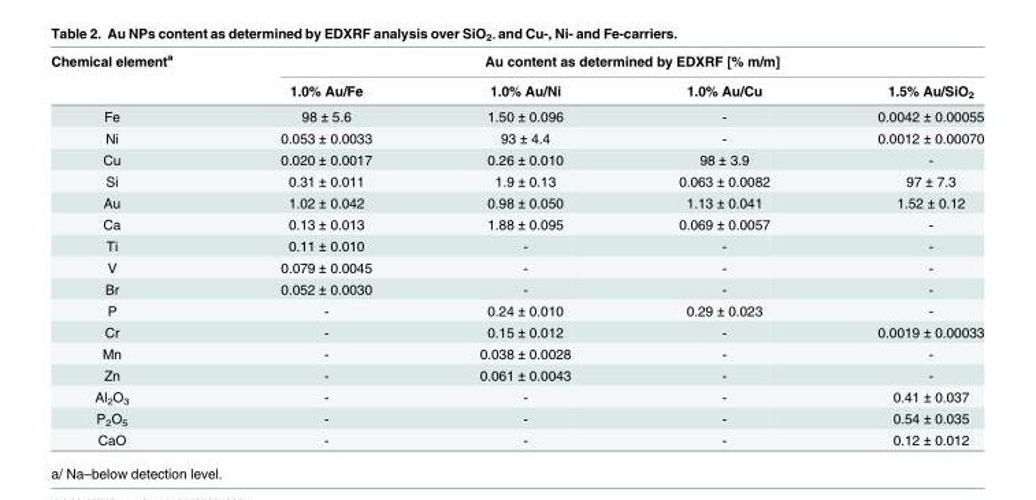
<table><thead><tr><td rowspan="2">Chemical element<sup>a</sup></td><td colspan="4">Au content as determined by EDXRF [% m/m]</td></tr><tr><td>1.0% Au/Fe</td><td>1.0% Au/Ni</td><td>1.0% Au/Cu</td><td>1.5% Au/SiO<sub>2</sub></td></tr></thead><tbody><tr><td>Fe</td><td>98 ± 5.6</td><td>1.50 ± 0.096</td><td>-</td><td>0.0042 ± 0.00055</td></tr><tr><td>Ni</td><td>0.053 ± 0.0033</td><td>93 ± 4.4</td><td>-</td><td>0.0012 ± 0.00070</td></tr><tr><td>Cu</td><td>0.020 ± 0.0017</td><td>0.26 ± 0.010</td><td>98 ± 3.9</td><td>-</td></tr><tr><td>Si</td><td>0.31 ± 0.011</td><td>1.9 ± 0.13</td><td>0.063 ± 0.0082</td><td>97 ± 7.3</td></tr><tr><td>Au</td><td>1.02 ± 0.042</td><td>0.98 ± 0.050</td><td>1.13 ± 0.041</td><td>1.52 ± 0.12</td></tr><tr><td>Ca</td><td>0.13 ± 0.013</td><td>1.88 ± 0.095</td><td>0.069 ± 0.0057</td><td>-</td></tr><tr><td>Ti</td><td>0.11 ± 0.010</td><td>-</td><td>-</td><td>-</td></tr><tr><td>V</td><td>0.079 ± 0.0045</td><td>-</td><td>-</td><td>-</td></tr><tr><td>Br</td><td>0.052 ± 0.0030</td><td>-</td><td>-</td><td>-</td></tr><tr><td>P</td><td>-</td><td>0.24 ± 0.010</td><td>0.29 ± 0.023</td><td>-</td></tr><tr><td>Cr</td><td>-</td><td>0.15 ± 0.012</td><td>-</td><td>0.0019 ± 0.00033</td></tr><tr><td>Mn</td><td>-</td><td>0.038 ± 0.0028</td><td>-</td><td>-</td></tr><tr><td>Zn</td><td>-</td><td>0.061 ± 0.0043</td><td>-</td><td>-</td></tr><tr><td>Al<sub>2</sub>O<sub>3</sub></td><td>-</td><td>-</td><td>-</td><td>0.41 ± 0.037</td></tr><tr><td>P<sub>2</sub>O<sub>5</sub></td><td>-</td><td>-</td><td>-</td><td>0.54 ± 0.035</td></tr><tr><td>CaO</td><td>-</td><td>-</td><td>-</td><td>0.12 ± 0.012</td></tr></tbody></table>